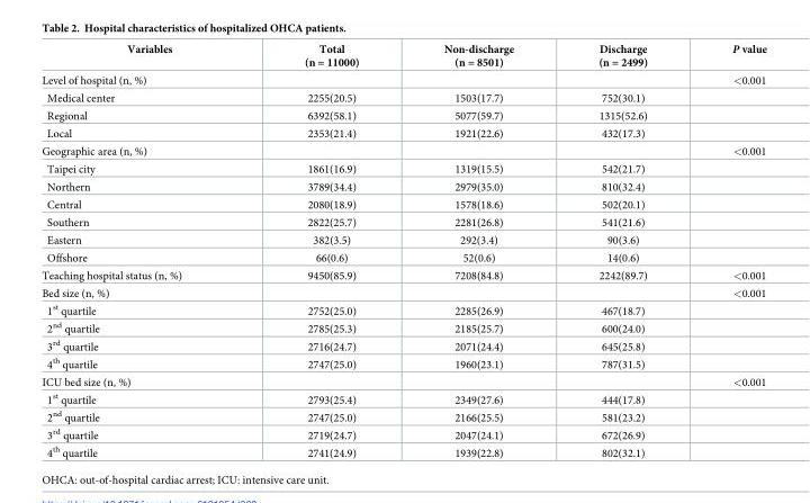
<table><thead><tr><td>Variables</td><td>Total (n = 11000)</td><td>Non-discharge (n = 8501)</td><td>Discharge (n = 2499)</td><td>P value</td></tr></thead><tbody><tr><td>Level of hospital (n, %)</td><td></td><td></td><td></td><td>&lt;0.001</td></tr><tr><td>Medical center</td><td>2255(20.5)</td><td>1503(17.7)</td><td>752(30.1)</td><td></td></tr><tr><td>Regional</td><td>6392(58.1)</td><td>5077(59.7)</td><td>1315(52.6)</td><td></td></tr><tr><td>Local</td><td>2353(21.4)</td><td>1921(22.6)</td><td>432(17.3)</td><td></td></tr><tr><td>Geographic area (n, %)</td><td></td><td></td><td></td><td>&lt;0.001</td></tr><tr><td>Taipei city</td><td>1861(16.9)</td><td>1319(15.5)</td><td>542(21.7)</td><td></td></tr><tr><td>Northern</td><td>3789(34.4)</td><td>2979(35.0)</td><td>810(32.4)</td><td></td></tr><tr><td>Central</td><td>2080(18.9)</td><td>1578(18.6)</td><td>502(20.1)</td><td></td></tr><tr><td>Southern</td><td>2822(25.7)</td><td>2281(26.8)</td><td>541(21.6)</td><td></td></tr><tr><td>Eastern</td><td>382(3.5)</td><td>292(3.4)</td><td>90(3.6)</td><td></td></tr><tr><td>Offshore</td><td>66(0.6)</td><td>52(0.6)</td><td>14(0.6)</td><td></td></tr><tr><td>Teaching hospital status (n, %)</td><td>9450(85.9)</td><td>7208(84.8)</td><td>2242(89.7)</td><td>&lt;0.001</td></tr><tr><td>Bed size (n, %)</td><td></td><td></td><td></td><td>&lt;0.001</td></tr><tr><td>1<sup>st</sup> quartile</td><td>2752(25.0)</td><td>2285(26.9)</td><td>467(18.7)</td><td></td></tr><tr><td>2<sup>nd</sup> quartile</td><td>2785(25.3)</td><td>2185(25.7)</td><td>600(24.0)</td><td></td></tr><tr><td>3<sup>rd</sup> quartile</td><td>2716(24.7)</td><td>2071(24.4)</td><td>645(25.8)</td><td></td></tr><tr><td>4<sup>th</sup> quartile</td><td>2747(25.0)</td><td>1960(23.1)</td><td>787(31.5)</td><td></td></tr><tr><td>ICU bed size (n, %)</td><td></td><td></td><td></td><td>&lt;0.001</td></tr><tr><td>1<sup>st</sup> quartile</td><td>2793(25.4)</td><td>2349(27.6)</td><td>444(17.8)</td><td></td></tr><tr><td>2<sup>nd</sup> quartile</td><td>2747(25.0)</td><td>2166(25.5)</td><td>581(23.2)</td><td></td></tr><tr><td>3<sup>rd</sup> quartile</td><td>2719(24.7)</td><td>2047(24.1)</td><td>672(26.9)</td><td></td></tr><tr><td>4<sup>th</sup> quartile</td><td>2741(24.9)</td><td>1939(22.8)</td><td>802(32.1)</td><td></td></tr></tbody></table>